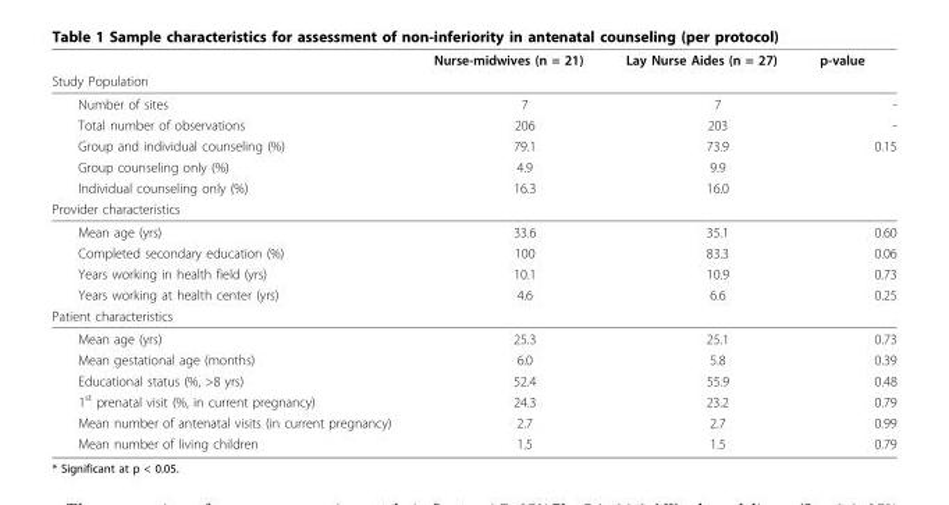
<table><thead><tr><td rowspan="2">Study Population</td><td rowspan="2">Nurse-midwives (n = 21)</td><td rowspan="2">Lay Nurse Aides (n = 27)</td><td rowspan="2">p-value</td></tr><tr></tr></thead><tbody><tr><td>Number of sites</td><td>7</td><td>7</td><td>-</td></tr><tr><td>Total number of observations</td><td>206</td><td>203</td><td>-</td></tr><tr><td>Group and individual counseling (%)</td><td>79.1</td><td>73.9</td><td>0.15</td></tr><tr><td>Group counseling only (%)</td><td>4.9</td><td>9.9</td><td></td></tr><tr><td>Individual counseling only (%)</td><td>16.3</td><td>16.0</td><td></td></tr><tr><td colspan="4">Provider characteristics</td></tr><tr><td>Mean age (yrs)</td><td>33.6</td><td>35.1</td><td>0.60</td></tr><tr><td>Completed secondary education (%)</td><td>100</td><td>83.3</td><td>0.06</td></tr><tr><td>Years working in health field (yrs)</td><td>10.1</td><td>10.9</td><td>0.73</td></tr><tr><td>Years working at health center (yrs)</td><td>4.6</td><td>6.6</td><td>0.25</td></tr><tr><td colspan="4">Patient characteristics</td></tr><tr><td>Mean age (yrs)</td><td>25.3</td><td>25.1</td><td>0.73</td></tr><tr><td>Mean gestational age (months)</td><td>6.0</td><td>5.8</td><td>0.39</td></tr><tr><td>Educational status (%, &gt;8 yrs)</td><td>52.4</td><td>55.9</td><td>0.48</td></tr><tr><td>1<sup>st</sup> prenatal visit (%, in current pregnancy)</td><td>24.3</td><td>23.2</td><td>0.79</td></tr><tr><td>Mean number of antenatal visits (in current pregnancy)</td><td>2.7</td><td>2.7</td><td>0.99</td></tr><tr><td>Mean number of living children</td><td>1.5</td><td>1.5</td><td>0.79</td></tr></tbody></table>